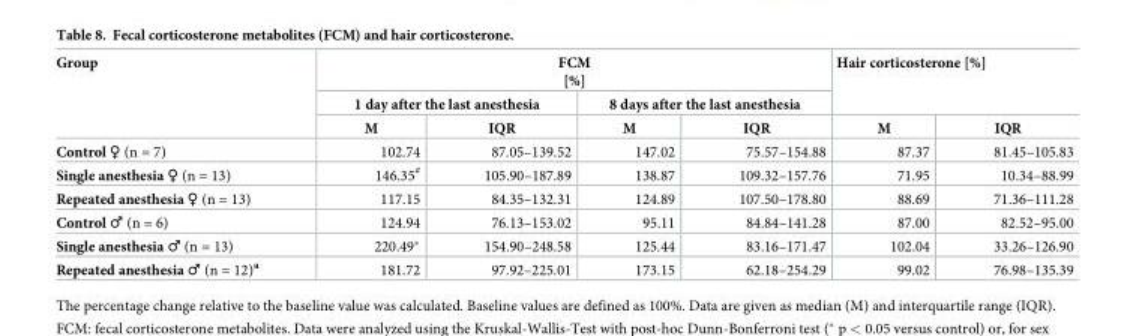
<table><thead><tr><td rowspan="3">Group</td><td colspan="4">FCM [%]</td><td rowspan="2" colspan="2">Hair corticosterone [%]</td></tr><tr><td colspan="2">1 day after the last anesthesia</td><td colspan="2">8 days after the last anesthesia</td></tr><tr><td>M</td><td>IQR</td><td>M</td><td>IQR</td><td>M</td><td>IQR</td></tr></thead><tbody><tr><td>Control ♀ (n = 7)</td><td>102.74</td><td>87.05–139.52</td><td>147.02</td><td>75.57–154.88</td><td>87.37</td><td>81.45–105.83</td></tr><tr><td>Single anesthesia ♀ (n = 13)</td><td>146.35<sup>#</sup></td><td>105.90–187.89</td><td>138.87</td><td>109.32–157.76</td><td>71.95</td><td>10.34–88.99</td></tr><tr><td>Repeated anesthesia ♀ (n = 13)</td><td>117.15</td><td>84.35–132.31</td><td>124.89</td><td>107.50–178.80</td><td>88.69</td><td>71.36–111.28</td></tr><tr><td>Control ♂ (n = 6)</td><td>124.94</td><td>76.13–153.02</td><td>95.11</td><td>84.84–141.28</td><td>87.00</td><td>82.52–95.00</td></tr><tr><td>Single anesthesia ♂ (n = 13)</td><td>220.49*</td><td>154.90–248.58</td><td>125.44</td><td>83.16–171.47</td><td>102.04</td><td>33.26–126.90</td></tr><tr><td>Repeated anesthesia ♂ (n = 12)<sup>a</sup></td><td>181.72</td><td>97.92–225.01</td><td>173.15</td><td>62.18–254.29</td><td>99.02</td><td>76.98–135.39</td></tr></tbody></table>